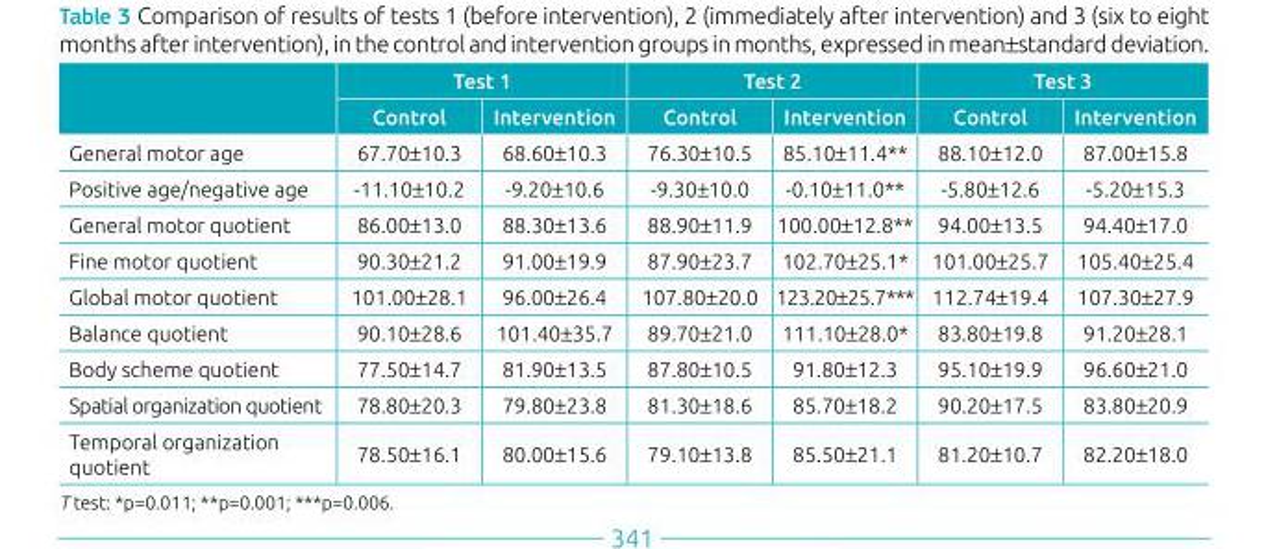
<table><thead><tr><td rowspan="2"></td><td colspan="2">Test 1</td><td colspan="2">Test 2</td><td colspan="2">Test 3</td></tr><tr><td>Control</td><td>Intervention</td><td>Control</td><td>Intervention</td><td>Control</td><td>Intervention</td></tr></thead><tbody><tr><td>General motor age</td><td>67.70±10.3</td><td>68.60±10.3</td><td>76.30±10.5</td><td>85.10±11.4**</td><td>88.10±12.0</td><td>87.00±15.8</td></tr><tr><td>Positive age/negative age</td><td>‑11.10±10.2</td><td>‑9.20±10.6</td><td>‑9.30±10.0</td><td>‑0.10±11.0**</td><td>‑5.80±12.6</td><td>‑5.20±15.3</td></tr><tr><td>General motor quotient</td><td>86.00±13.0</td><td>88.30±13.6</td><td>88.90±11.9</td><td>100.00±12.8**</td><td>94.00±13.5</td><td>94.40±17.0</td></tr><tr><td>Fine motor quotient</td><td>90.30±21.2</td><td>91.00±19.9</td><td>87.90±23.7</td><td>102.70±25.1*</td><td>101.00±25.7</td><td>105.40±25.4</td></tr><tr><td>Global motor quotient</td><td>101.00±28.1</td><td>96.00±26.4</td><td>107.80±20.0</td><td>123.20±25.7***</td><td>112.74±19.4</td><td>107.30±27.9</td></tr><tr><td>Balance quotient</td><td>90.10±28.6</td><td>101.40±35.7</td><td>89.70±21.0</td><td>111.10±28.0*</td><td>83.80±19.8</td><td>91.20±28.1</td></tr><tr><td>Body scheme quotient</td><td>77.50±14.7</td><td>81.90±13.5</td><td>87.80±10.5</td><td>91.80±12.3</td><td>95.10±19.9</td><td>96.60±21.0</td></tr><tr><td>Spatial organization quotient</td><td>78.80±20.3</td><td>79.80±23.8</td><td>81.30±18.6</td><td>85.70±18.2</td><td>90.20±17.5</td><td>83.80±20.9</td></tr><tr><td>Temporal organization quotient</td><td>78.50±16.1</td><td>80.00±15.6</td><td>79.10±13.8</td><td>85.50±21.1</td><td>81.20±10.7</td><td>82.20±18.0</td></tr></tbody></table>